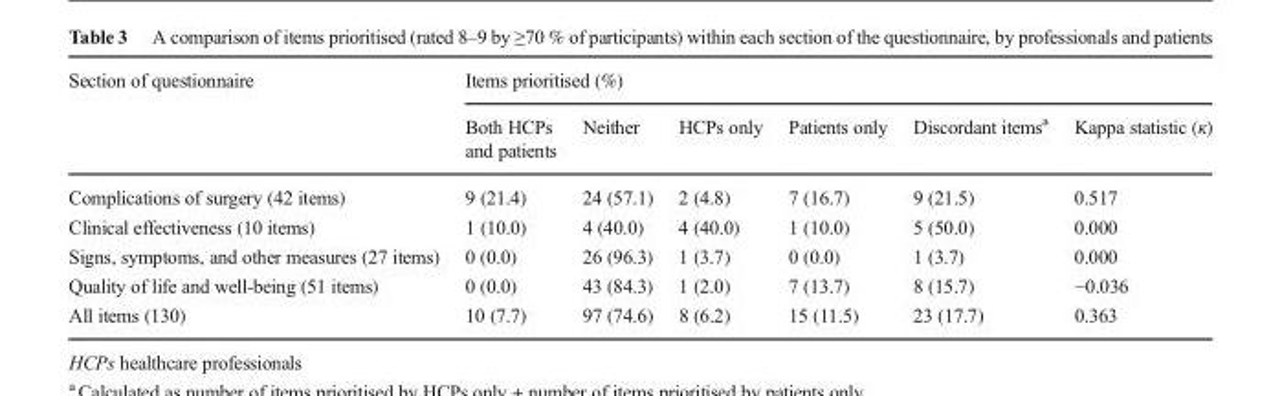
<table><thead><tr><td rowspan="2">Section of questionnaire</td><td colspan="6">Items prioritised (%)</td></tr><tr><td>Both HCPs and patients</td><td>Neither</td><td>HCPs only</td><td>Patients only</td><td>Discordant items<sup>a</sup></td><td>Kappa statistic (ĸ)</td></tr></thead><tbody><tr><td>Complications of surgery (42 items)</td><td>9 (21.4)</td><td>24 (57.1)</td><td>2 (4.8)</td><td>7 (16.7)</td><td>9 (21.5)</td><td>0.517</td></tr><tr><td>Clinical effectiveness (10 items)</td><td>1 (10.0)</td><td>4 (40.0)</td><td>4 (40.0)</td><td>1 (10.0)</td><td>5 (50.0)</td><td>0.000</td></tr><tr><td>Signs, symptoms, and other measures (27 items)</td><td>0 (0.0)</td><td>26 (96.3)</td><td>1 (3.7)</td><td>0 (0.0)</td><td>1 (3.7)</td><td>0.000</td></tr><tr><td>Quality of life and well-being (51 items)</td><td>0 (0.0)</td><td>43 (84.3)</td><td>1 (2.0)</td><td>7 (13.7)</td><td>8 (15.7)</td><td>−0.036</td></tr><tr><td>All items (130)</td><td>10 (7.7)</td><td>97 (74.6)</td><td>8 (6.2)</td><td>15 (11.5)</td><td>23 (17.7)</td><td>0.363</td></tr></tbody></table>